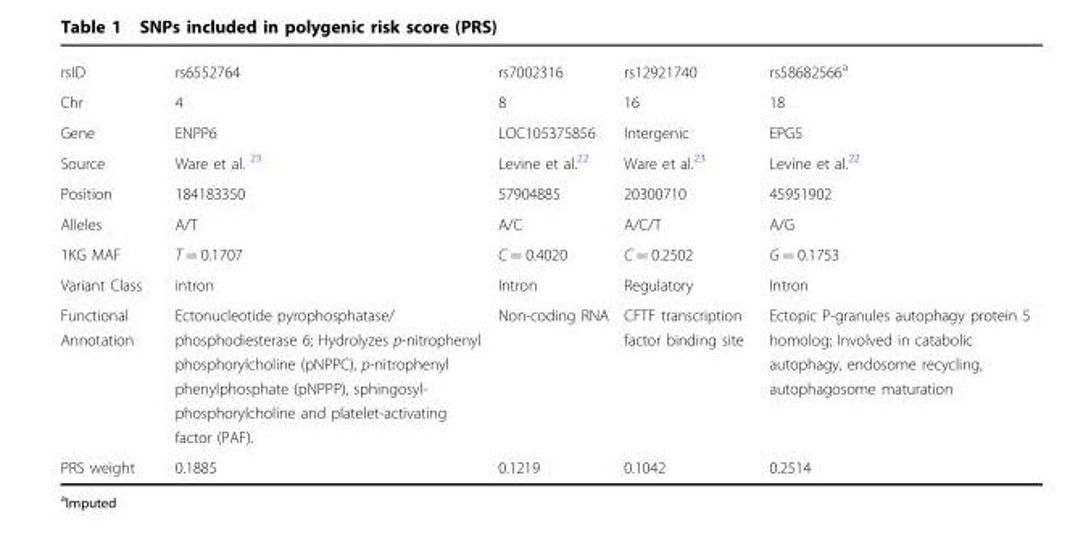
<table><tbody><tr><td>rsID</td><td>rs6552764</td><td>rs7002316</td><td>rs12921740</td><td>rs58682566<sup>a</sup></td></tr><tr><td>Chr</td><td>4</td><td>8</td><td>16</td><td>18</td></tr><tr><td>Gene</td><td>ENPP6</td><td>LOC105375856</td><td>Intergenic</td><td>EPG5</td></tr><tr><td>Source</td><td>Ware et al. <sup>23</sup></td><td>Levine et al.<sup>22</sup></td><td>Ware et al.<sup>23</sup></td><td>Levine et al.<sup>22</sup></td></tr><tr><td>Position</td><td>184183350</td><td>57904885</td><td>20300710</td><td>45951902</td></tr><tr><td>Alleles</td><td>A/T</td><td>A/C</td><td>A/C/T</td><td>A/G</td></tr><tr><td>1KG MAF</td><td>T = 0.1707</td><td>C = 0.4020</td><td>C = 0.2502</td><td>G = 0.1753</td></tr><tr><td>Variant Class</td><td>intron</td><td>Intron</td><td>Regulatory</td><td>Intron</td></tr><tr><td>Functional Annotation</td><td>Ectonucleotide pyrophosphatase/ phosphodiesterase 6; Hydrolyzes p-nitrophenyl phosphorylcholine (pNPPC), p-nitrophenyl phenylphosphate (pNPPP), sphingosyl- phosphorylcholine and platelet-activating factor (PAF).</td><td>Non-coding RNA</td><td>CFTF transcription factor binding site</td><td>Ectopic P-granules autophagy protein 5 homolog; Involved in catabolic autophagy, endosome recycling, autophagosome maturation</td></tr><tr><td>PRS weight</td><td>0.1885</td><td>0.1219</td><td>0.1042</td><td>0.2514</td></tr></tbody></table>